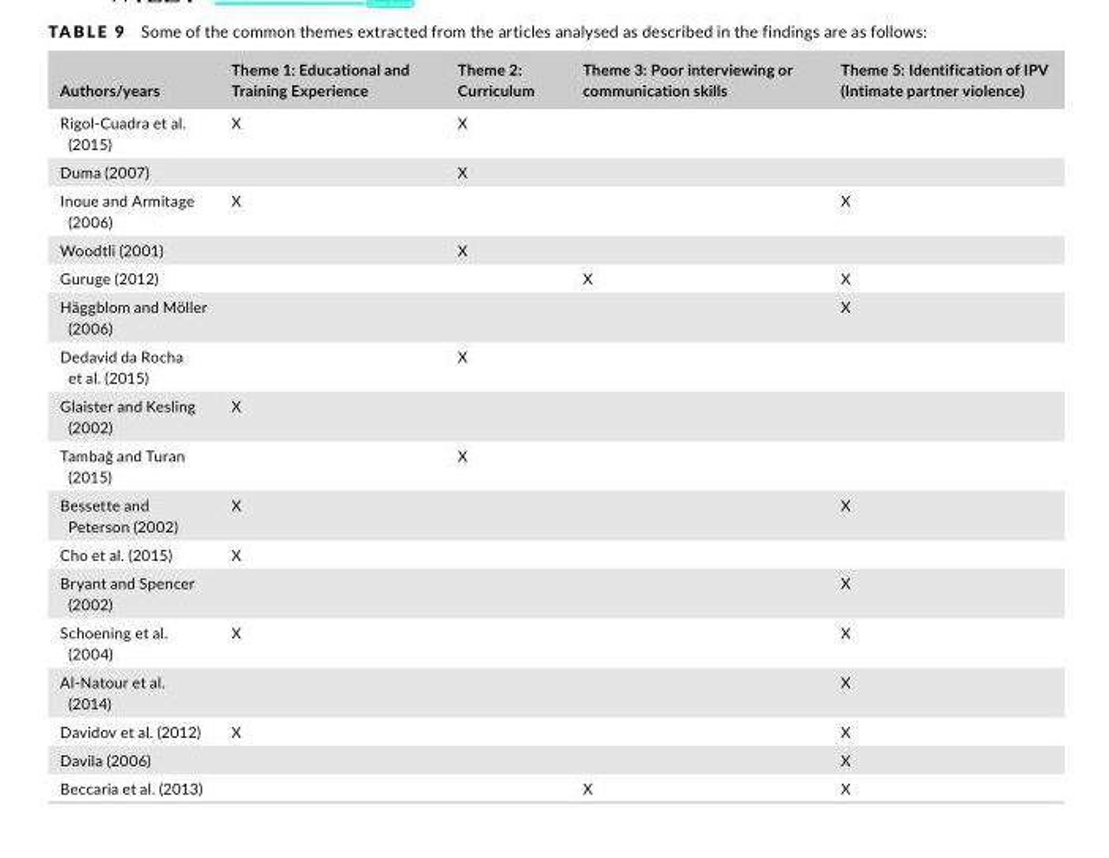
<table><thead><tr><td>Authors/years</td><td>Theme 1: Educational and Training Experience</td><td>Theme 2: Curriculum</td><td>Theme 3: Poor interviewing or communication skills</td><td>Theme 5: Identification of IPV (Intimate partner violence)</td></tr></thead><tbody><tr><td>Rigol- Cuadra et al. (2015)</td><td>X</td><td>X</td><td></td><td></td></tr><tr><td>Duma (2007)</td><td></td><td>X</td><td></td><td></td></tr><tr><td>Inoue and Armitage (2006)</td><td>X</td><td></td><td></td><td>X</td></tr><tr><td>Woodtli (2001)</td><td></td><td>X</td><td></td><td></td></tr><tr><td>Guruge (2012)</td><td></td><td></td><td>X</td><td>X</td></tr><tr><td>Häggblom and Möller (2006)</td><td></td><td></td><td></td><td>X</td></tr><tr><td>Dedavid da Rocha et al. (2015)</td><td></td><td>X</td><td></td><td></td></tr><tr><td>Glaister and Kesling (2002)</td><td>X</td><td></td><td></td><td></td></tr><tr><td>Tambağ and Turan (2015)</td><td></td><td>X</td><td></td><td></td></tr><tr><td>Bessette and Peterson (2002)</td><td>X</td><td></td><td></td><td>X</td></tr><tr><td>Cho et al. (2015)</td><td>X</td><td></td><td></td><td></td></tr><tr><td>Bryant and Spencer (2002)</td><td></td><td></td><td></td><td>X</td></tr><tr><td>Schoening et al. (2004)</td><td>X</td><td></td><td></td><td>X</td></tr><tr><td>Al- Natour et al. (2014)</td><td></td><td></td><td></td><td>X</td></tr><tr><td>Davidov et al. (2012)</td><td>X</td><td></td><td></td><td>X</td></tr><tr><td>Davila (2006)</td><td></td><td></td><td></td><td>X</td></tr><tr><td>Beccaria et al. (2013)</td><td></td><td></td><td>X</td><td>X</td></tr></tbody></table>